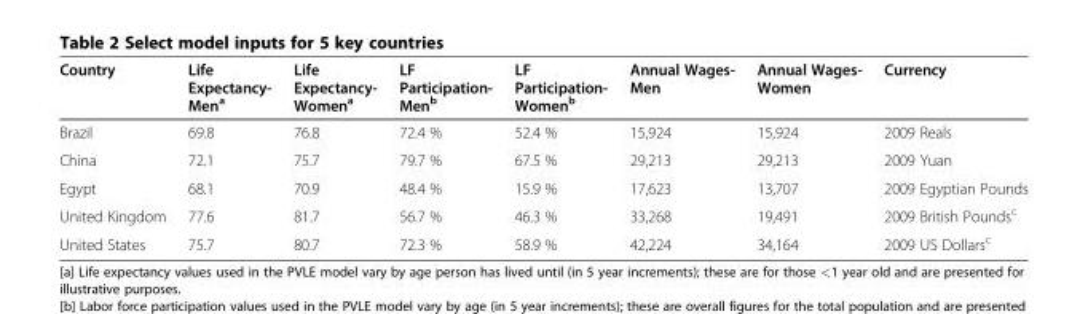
<table><thead><tr><td>Country</td><td>Life Expectancy- Men<sup>a</sup></td><td>Life Expectancy- Women<sup>a</sup></td><td>LF Participation- Men<sup>b</sup></td><td>LF Participation- Women<sup>b</sup></td><td>Annual Wages- Men</td><td>Annual Wages- Women</td><td>Currency</td></tr></thead><tbody><tr><td>Brazil</td><td>69.8</td><td>76.8</td><td>72.4 %</td><td>52.4 %</td><td>15,924</td><td>15,924</td><td>2009 Reals</td></tr><tr><td>China</td><td>72.1</td><td>75.7</td><td>79.7 %</td><td>67.5 %</td><td>29,213</td><td>29,213</td><td>2009 Yuan</td></tr><tr><td>Egypt</td><td>68.1</td><td>70.9</td><td>48.4 %</td><td>15.9 %</td><td>17,623</td><td>13,707</td><td>2009 Egyptian Pounds</td></tr><tr><td>United Kingdom</td><td>77.6</td><td>81.7</td><td>56.7 %</td><td>46.3 %</td><td>33,268</td><td>19,491</td><td>2009 British Pounds<sup>c</sup></td></tr><tr><td>United States</td><td>75.7</td><td>80.7</td><td>72.3 %</td><td>58.9 %</td><td>42,224</td><td>34,164</td><td>2009 US Dollars<sup>c</sup></td></tr></tbody></table>